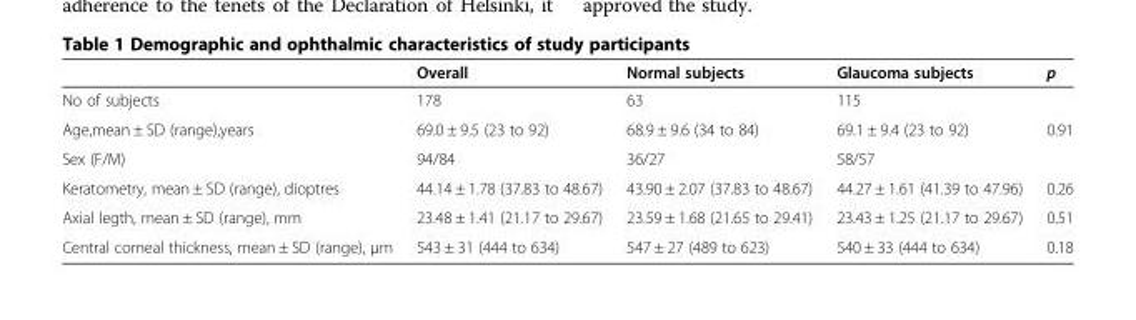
<table><thead><tr><td></td><td>Overall</td><td>Normal subjects</td><td>Glaucoma subjects</td><td>p</td></tr></thead><tbody><tr><td>No of subjects</td><td>178</td><td>63</td><td>115</td><td></td></tr><tr><td>Age,mean ± SD (range),years</td><td>69.0 ± 9.5 (23 to 92)</td><td>68.9 ± 9.6 (34 to 84)</td><td>69.1 ± 9.4 (23 to 92)</td><td>0.91</td></tr><tr><td>Sex (F/M)</td><td>94/84</td><td>36/27</td><td>58/57</td><td></td></tr><tr><td>Keratometry, mean ± SD (range), dioptres</td><td>44.14 ± 1.78 (37.83 to 48.67)</td><td>43.90 ± 2.07 (37.83 to 48.67)</td><td>44.27 ± 1.61 (41.39 to 47.96)</td><td>0.26</td></tr><tr><td>Axial legth, mean ± SD (range), mm</td><td>23.48 ± 1.41 (21.17 to 29.67)</td><td>23.59 ± 1.68 (21.65 to 29.41)</td><td>23.43 ± 1.25 (21.17 to 29.67)</td><td>0.51</td></tr><tr><td>Central corneal thickness, mean ± SD (range), μm</td><td>543 ± 31 (444 to 634)</td><td>547 ± 27 (489 to 623)</td><td>540 ± 33 (444 to 634)</td><td>0.18</td></tr></tbody></table>